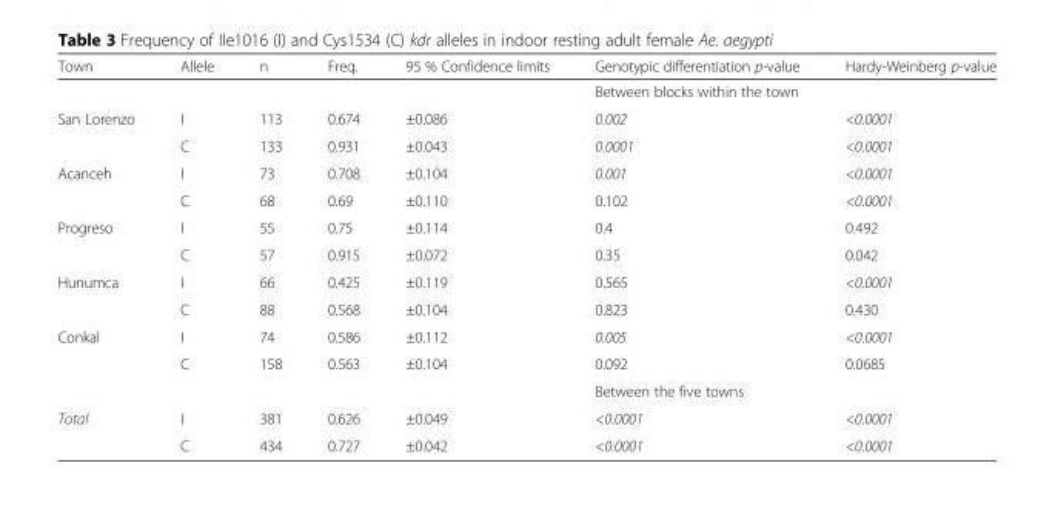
<table><thead><tr><td>Town</td><td>Allele</td><td>n</td><td>Freq.</td><td>95 % Confidence limits</td><td>Genotypic differentiation p-value</td><td>Hardy-Weinberg p-value</td></tr></thead><tbody><tr><td></td><td></td><td></td><td></td><td></td><td colspan="2">Between blocks within the town</td></tr><tr><td rowspan="2">San Lorenzo</td><td>I</td><td>113</td><td>0.674</td><td>±0.086</td><td>0.002</td><td>&lt;0.0001</td></tr><tr><td>C</td><td>133</td><td>0.931</td><td>±0.043</td><td>0.0001</td><td>&lt;0.0001</td></tr><tr><td rowspan="2">Acanceh</td><td>I</td><td>73</td><td>0.708</td><td>±0.104</td><td>0.001</td><td>&lt;0.0001</td></tr><tr><td>C</td><td>68</td><td>0.69</td><td>±0.110</td><td>0.102</td><td>&lt;0.0001</td></tr><tr><td rowspan="2">Progreso</td><td>I</td><td>55</td><td>0.75</td><td>±0.114</td><td>0.4</td><td>0.492</td></tr><tr><td>C</td><td>57</td><td>0.915</td><td>±0.072</td><td>0.35</td><td>0.042</td></tr><tr><td rowspan="2">Hunumca</td><td>I</td><td>66</td><td>0.425</td><td>±0.119</td><td>0.565</td><td>&lt;0.0001</td></tr><tr><td>C</td><td>88</td><td>0.568</td><td>±0.104</td><td>0.823</td><td>0.430</td></tr><tr><td rowspan="3">Conkal</td><td>I</td><td>74</td><td>0.586</td><td>±0.112</td><td>0.005</td><td>&lt;0.0001</td></tr><tr><td>C</td><td>158</td><td>0.563</td><td>±0.104</td><td>0.092</td><td>0.0685</td></tr><tr><td></td><td></td><td></td><td></td><td colspan="2">Between the five towns</td></tr><tr><td rowspan="2">Total</td><td>I</td><td>381</td><td>0.626</td><td>±0.049</td><td>&lt;0.0001</td><td>&lt;0.0001</td></tr><tr><td>C</td><td>434</td><td>0.727</td><td>±0.042</td><td>&lt;0.0001</td><td>&lt;0.0001</td></tr></tbody></table>